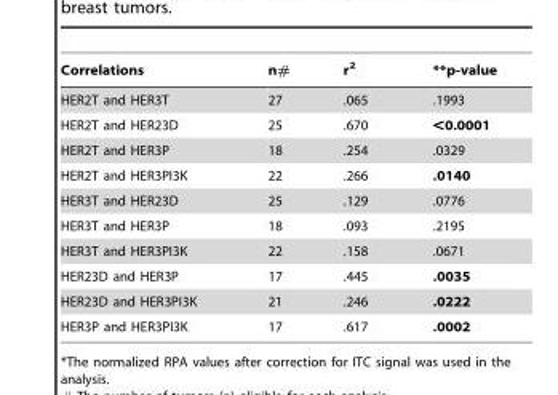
<table><thead><tr><td>Correlations</td><td>n#</td><td>r<sup>2</sup></td><td>**p-value</td></tr></thead><tbody><tr><td>HER2T and HER3T</td><td>27</td><td>.065</td><td>.1993</td></tr><tr><td>HER2T and HER23D</td><td>25</td><td>.670</td><td>&lt;0.0001</td></tr><tr><td>HER2T and HER3P</td><td>18</td><td>.254</td><td>.0329</td></tr><tr><td>HER2T and HER3PI3K</td><td>22</td><td>.266</td><td>.0140</td></tr><tr><td>HER3T and HER23D</td><td>25</td><td>.129</td><td>.0776</td></tr><tr><td>HER3T and HER3P</td><td>18</td><td>.093</td><td>.2195</td></tr><tr><td>HER3T and HER3PI3K</td><td>22</td><td>.158</td><td>.0671</td></tr><tr><td>HER23D and HER3P</td><td>17</td><td>.445</td><td>.0035</td></tr><tr><td>HER23D and HER3PI3K</td><td>21</td><td>.246</td><td>.0222</td></tr><tr><td>HER3P and HER3PI3K</td><td>17</td><td>.617</td><td>.0002</td></tr></tbody></table>